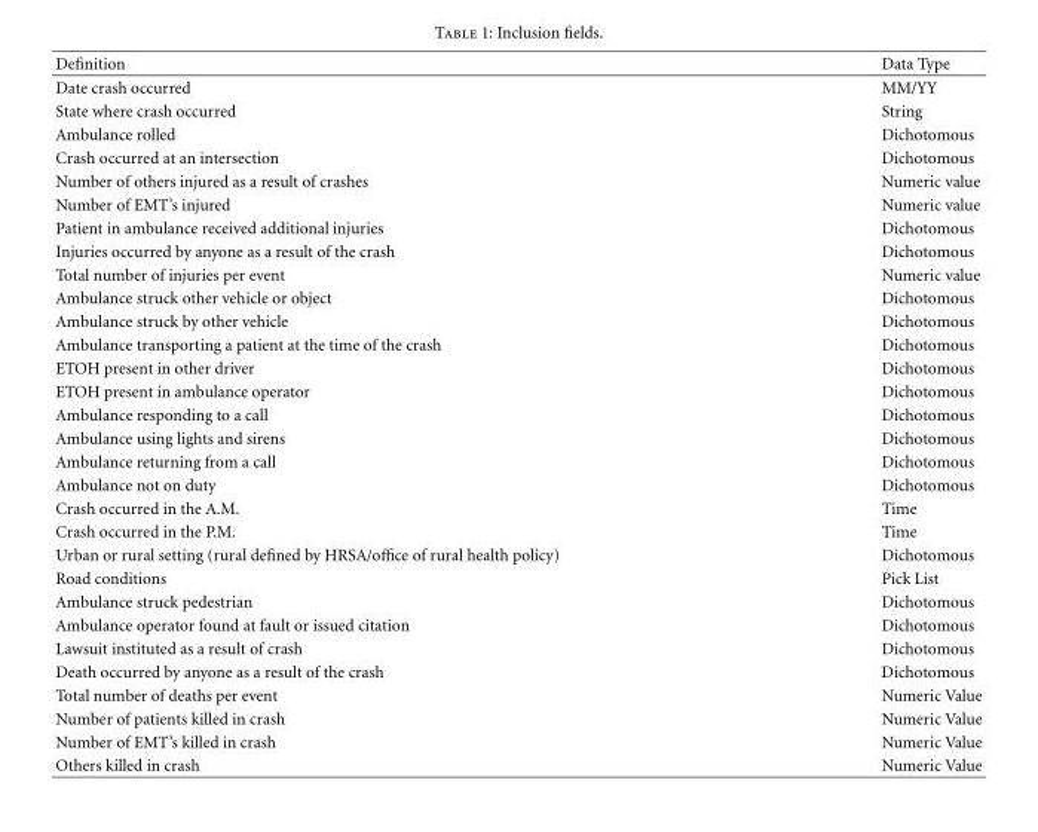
<table><thead><tr><td>Definition</td><td>Data Type</td></tr></thead><tbody><tr><td>Date crash occurred</td><td>MM/YY</td></tr><tr><td>State where crash occurred</td><td>String</td></tr><tr><td>Ambulance rolled</td><td>Dichotomous</td></tr><tr><td>Crash occurred at an intersection</td><td>Dichotomous</td></tr><tr><td>Number of others injured as a result of crashes</td><td>Numeric value</td></tr><tr><td>Number of EMT’s injured</td><td>Numeric value</td></tr><tr><td>Patient in ambulance received additional injuries</td><td>Dichotomous</td></tr><tr><td>Injuries occurred by anyone as a result of the crash</td><td>Dichotomous</td></tr><tr><td>Total number of injuries per event</td><td>Numeric value</td></tr><tr><td>Ambulance struck other vehicle or object</td><td>Dichotomous</td></tr><tr><td>Ambulance struck by other vehicle</td><td>Dichotomous</td></tr><tr><td>Ambulance transporting a patient at the time of the crash</td><td>Dichotomous</td></tr><tr><td>ETOH present in other driver</td><td>Dichotomous</td></tr><tr><td>ETOH present in ambulance operator</td><td>Dichotomous</td></tr><tr><td>Ambulance responding to a call</td><td>Dichotomous</td></tr><tr><td>Ambulance using lights and sirens</td><td>Dichotomous</td></tr><tr><td>Ambulance returning from a call</td><td>Dichotomous</td></tr><tr><td>Ambulance not on duty</td><td>Dichotomous</td></tr><tr><td>Crash occurred in the A.M.</td><td>Time</td></tr><tr><td>Crash occurred in the P.M.</td><td>Time</td></tr><tr><td>Urban or rural setting (rural defined by HRSA/office of rural health policy)</td><td>Dichotomous</td></tr><tr><td>Road conditions</td><td>Pick List</td></tr><tr><td>Ambulance struck pedestrian</td><td>Dichotomous</td></tr><tr><td>Ambulance operator found at fault or issued citation</td><td>Dichotomous</td></tr><tr><td>Lawsuit instituted as a result of crash</td><td>Dichotomous</td></tr><tr><td>Death occurred by anyone as a result of the crash</td><td>Dichotomous</td></tr><tr><td>Total number of deaths per event</td><td>Numeric Value</td></tr><tr><td>Number of patients killed in crash</td><td>Numeric Value</td></tr><tr><td>Number of EMT’s killed in crash</td><td>Numeric Value</td></tr><tr><td>Others killed in crash</td><td>Numeric Value</td></tr></tbody></table>